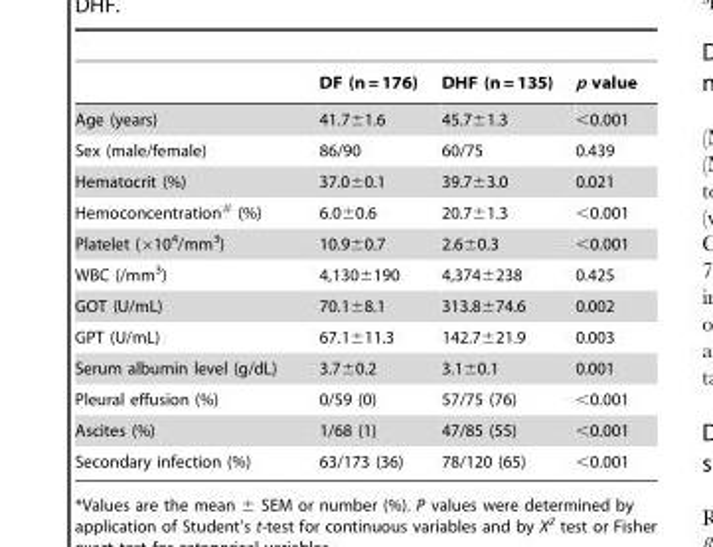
<table><thead><tr><td></td><td>DF (n = 176)</td><td>DHF (n = 135)</td><td>p value</td></tr></thead><tbody><tr><td>Age (years)</td><td>41.7±1.6</td><td>45.7±1.3</td><td>&lt;0.001</td></tr><tr><td>Sex (male/female)</td><td>86/90</td><td>60/75</td><td>0.439</td></tr><tr><td>Hematocrit (%)</td><td>37.0±0.1</td><td>39.7±3.0</td><td>0.021</td></tr><tr><td>Hemoconcentration# (%)</td><td>6.0±0.6</td><td>20.7±1.3</td><td>&lt;0.001</td></tr><tr><td>Platelet (×10<sup>4</sup>/mm<sup>3</sup>)</td><td>10.9±0.7</td><td>2.6±0.3</td><td>&lt;0.001</td></tr><tr><td>WBC (/mm<sup>3</sup>)</td><td>4,130±190</td><td>4,374±238</td><td>0.425</td></tr><tr><td>GOT (U/mL)</td><td>70.1±8.1</td><td>313.8±74.6</td><td>0.002</td></tr><tr><td>GPT (U/mL)</td><td>67.1±11.3</td><td>142.7±21.9</td><td>0.003</td></tr><tr><td>Serum albumin level (g/dL)</td><td>3.7±0.2</td><td>3.1±0.1</td><td>0.001</td></tr><tr><td>Pleural effusion (%)</td><td>0/59 (0)</td><td>57/75 (76)</td><td>&lt;0.001</td></tr><tr><td>Ascites (%)</td><td>1/68 (1)</td><td>47/85 (55)</td><td>&lt;0.001</td></tr><tr><td>Secondary infection (%)</td><td>63/173 (36)</td><td>78/120 (65)</td><td>&lt;0.001</td></tr></tbody></table>